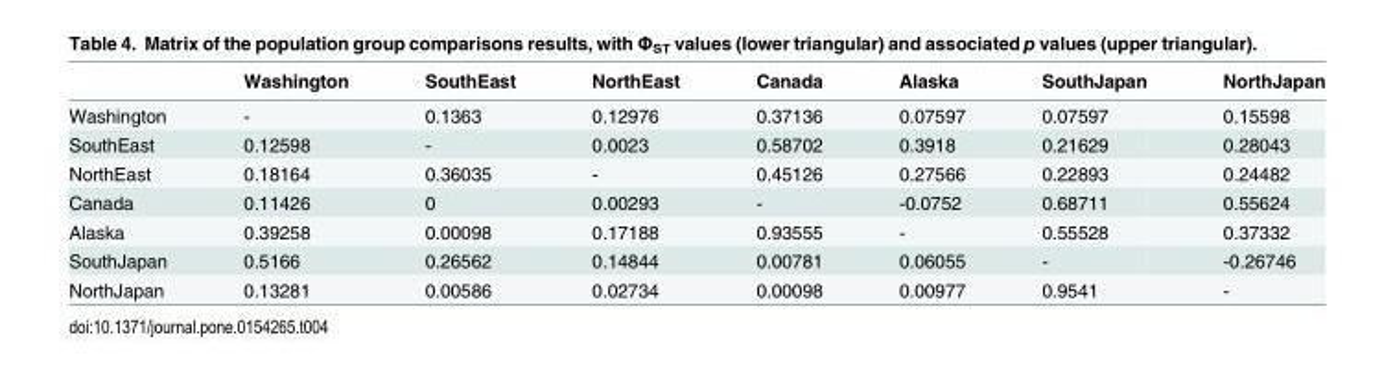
<table><thead><tr><td></td><td>Washington</td><td>SouthEast</td><td>NorthEast</td><td>Canada</td><td>Alaska</td><td>SouthJapan</td><td>NorthJapan</td></tr></thead><tbody><tr><td>Washington</td><td>-</td><td>0.1363</td><td>0.12976</td><td>0.37136</td><td>0.07597</td><td>0.07597</td><td>0.15598</td></tr><tr><td>SouthEast</td><td>0.12598</td><td>-</td><td>0.0023</td><td>0.58702</td><td>0.3918</td><td>0.21629</td><td>0.28043</td></tr><tr><td>NorthEast</td><td>0.18164</td><td>0.36035</td><td>-</td><td>0.45126</td><td>0.27566</td><td>0.22893</td><td>0.24482</td></tr><tr><td>Canada</td><td>0.11426</td><td>0</td><td>0.00293</td><td>-</td><td>-0.0752</td><td>0.68711</td><td>0.55624</td></tr><tr><td>Alaska</td><td>0.39258</td><td>0.00098</td><td>0.17188</td><td>0.93555</td><td>-</td><td>0.55528</td><td>0.37332</td></tr><tr><td>SouthJapan</td><td>0.5166</td><td>0.26562</td><td>0.14844</td><td>0.00781</td><td>0.06055</td><td>-</td><td>-0.26746</td></tr><tr><td>NorthJapan</td><td>0.13281</td><td>0.00586</td><td>0.02734</td><td>0.00098</td><td>0.00977</td><td>0.9541</td><td>-</td></tr></tbody></table>